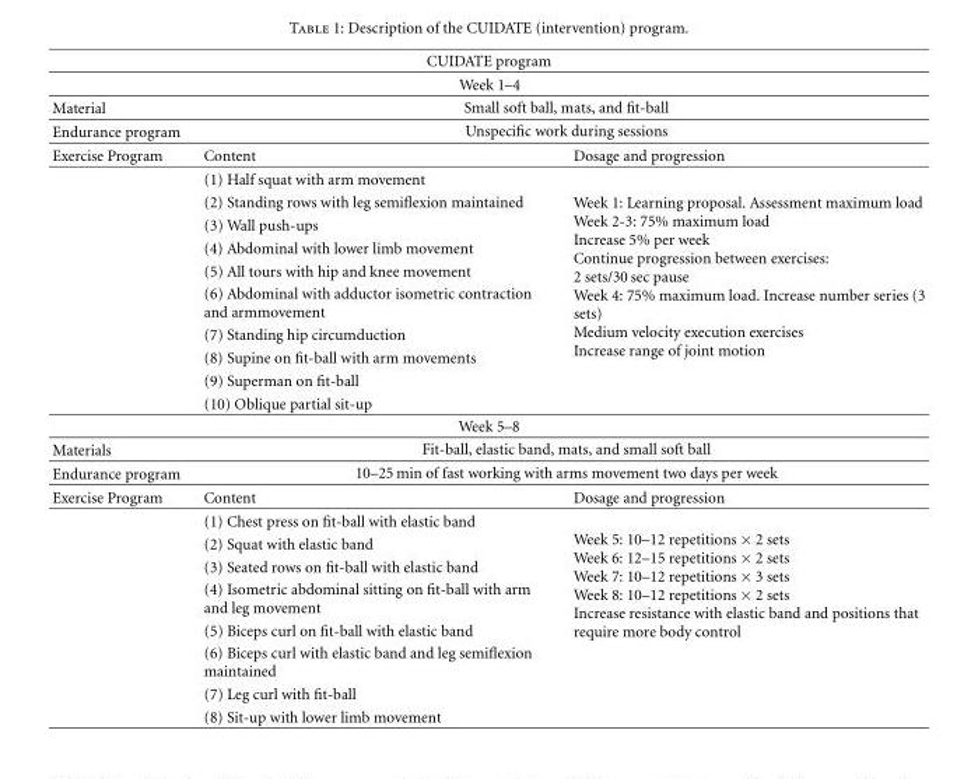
<table><thead><tr><td colspan="3">CUIDATE program</td></tr></thead><tbody><tr><td colspan="3">Week 1–4</td></tr><tr><td>Material</td><td colspan="2">Small soft ball, mats, and fit-ball</td></tr><tr><td>Endurance program</td><td colspan="2">Unspecific work during sessions</td></tr><tr><td rowspan="11">Exercise Program</td><td>Content</td><td>Dosage and progression</td></tr><tr><td>(1) Half squat with arm movement</td><td rowspan="10">Week 1: Learning proposal. Assessment maximum load Week 2-3: 75% maximum load Increase 5% per week Continue progression between exercises: 2 sets/30 sec pause Week 4: 75% maximum load. Increase number series (3 sets) Medium velocity execution exercises Increase range of joint motion</td></tr><tr><td>(2) Standing rows with leg semiflexion maintained</td></tr><tr><td>(3) Wall push-ups</td></tr><tr><td>(4) Abdominal with lower limb movement</td></tr><tr><td>(5) All tours with hip and knee movement</td></tr><tr><td>(6) Abdominal with adductor isometric contraction and armmovement</td></tr><tr><td>(7) Standing hip circumduction</td></tr><tr><td>(8) Supine on fit-ball with arm movements</td></tr><tr><td>(9) Superman on fit-ball</td></tr><tr><td>(10) Oblique partial sit-up</td></tr><tr><td colspan="3">Week 5–8</td></tr><tr><td>Materials</td><td colspan="2">Fit-ball, elastic band, mats, and small soft ball</td></tr><tr><td>Endurance program</td><td colspan="2">10–25 min of fast working with arms movement two days per week</td></tr><tr><td rowspan="9">Exercise Program</td><td>Content</td><td>Dosage and progression</td></tr><tr><td>(1) Chest press on fit-ball with elastic band</td><td rowspan="7">Week 5: 10–12 repetitions × 2 sets Week 6: 12–15 repetitions × 2 sets Week 7: 10–12 repetitions × 3 sets Week 8: 10–12 repetitions × 2 sets Increase resistance with elastic band and positions that require more body control</td></tr><tr><td>(2) Squat with elastic band</td></tr><tr><td>(3) Seated rows on fit-ball with elastic band</td></tr><tr><td>(4) Isometric abdominal sitting on fit-ball with arm and leg movement</td></tr><tr><td>(5) Biceps curl on fit-ball with elastic band</td></tr><tr><td>(6) Biceps curl with elastic band and leg semiflexion maintained</td></tr><tr><td>(7) Leg curl with fit-ball</td></tr><tr><td>(8) Sit-up with lower limb movement</td><td></td></tr></tbody></table>